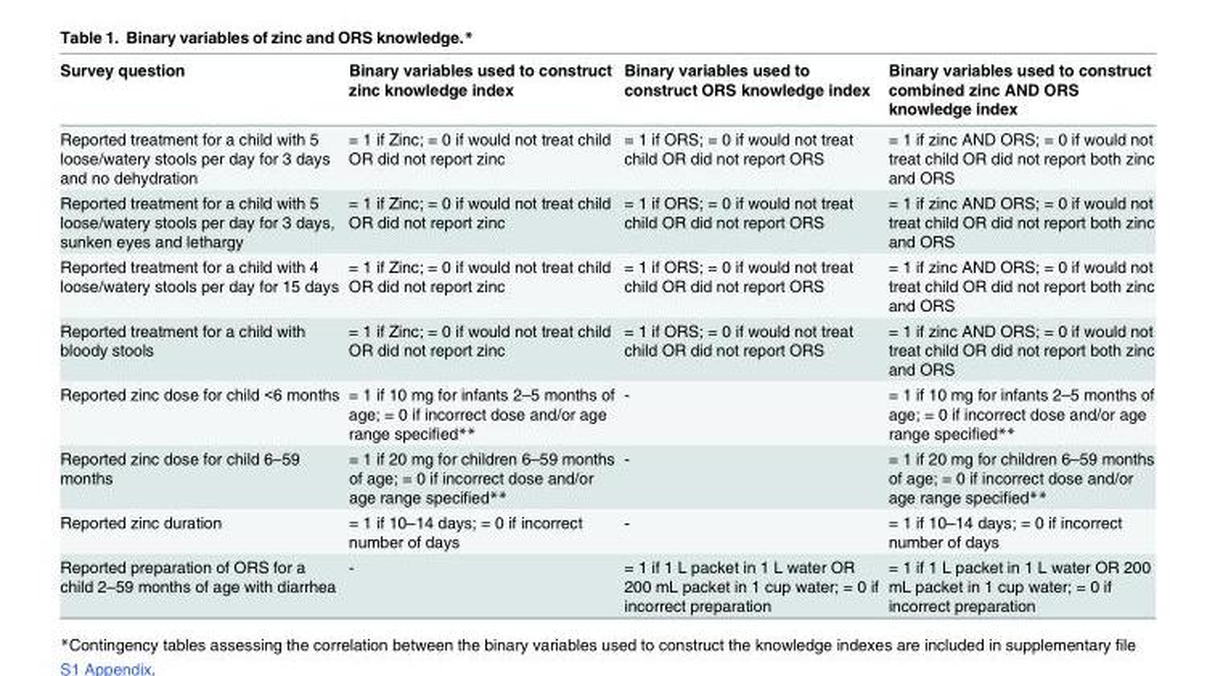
<table><thead><tr><td>Survey question</td><td>Binary variables used to construct zinc knowledge index</td><td>Binary variables used to construct ORS knowledge index</td><td>Binary variables used to construct combined zinc AND ORS knowledge index</td></tr></thead><tbody><tr><td>Reported treatment for a child with 5 loose/watery stools per day for 3 days and no dehydration</td><td>= 1 if Zinc; = 0 if would not treat child OR did not report zinc</td><td>= 1 if ORS; = 0 if would not treat child OR did not report ORS</td><td>= 1 if zinc AND ORS; = 0 if would not treat child OR did not report both zinc and ORS</td></tr><tr><td>Reported treatment for a child with 5 loose/watery stools per day for 3 days, sunken eyes and lethargy</td><td>= 1 if Zinc; = 0 if would not treat child OR did not report zinc</td><td>= 1 if ORS; = 0 if would not treat child OR did not report ORS</td><td>= 1 if zinc AND ORS; = 0 if would not treat child OR did not report both zinc and ORS</td></tr><tr><td>Reported treatment for a child with 4 loose/watery stools per day for 15 days</td><td>= 1 if Zinc; = 0 if would not treat child OR did not report zinc</td><td>= 1 if ORS; = 0 if would not treat child OR did not report ORS</td><td>= 1 if zinc AND ORS; = 0 if would not treat child OR did not report both zinc and ORS</td></tr><tr><td>Reported treatment for a child with bloody stools</td><td>= 1 if Zinc; = 0 if would not treat child OR did not report zinc</td><td>= 1 if ORS; = 0 if would not treat child OR did not report ORS</td><td>= 1 if zinc AND ORS; = 0 if would not treat child OR did not report both zinc and ORS</td></tr><tr><td>Reported zinc dose for child &lt;6 months</td><td>= 1 if 10 mg for infants 2–5 months of age; = 0 if incorrect dose and/or age range specified**</td><td>-</td><td>= 1 if 10 mg for infants 2–5 months of age; = 0 if incorrect dose and/or age range specified**</td></tr><tr><td>Reported zinc dose for child 6–59 months</td><td>= 1 if 20 mg for children 6–59 months of age; = 0 if incorrect dose and/or age range specified**</td><td>-</td><td>= 1 if 20 mg for children 6–59 months of age; = 0 if incorrect dose and/or age range specified**</td></tr><tr><td>Reported zinc duration</td><td>= 1 if 10–14 days; = 0 if incorrect number of days</td><td>-</td><td>= 1 if 10–14 days; = 0 if incorrect number of days</td></tr><tr><td>Reported preparation of ORS for a child 2–59 months of age with diarrhea</td><td>-</td><td>= 1 if 1 L packet in 1 L water OR 200 mL packet in 1 cup water; = 0 if incorrect preparation</td><td>= 1 if 1 L packet in 1 L water OR 200 mL packet in 1 cup water; = 0 if incorrect preparation</td></tr></tbody></table>